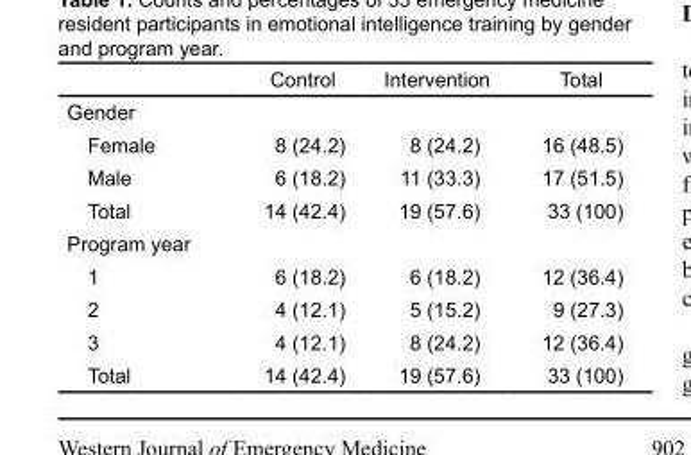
<table><thead><tr><td></td><td>Control</td><td>Intervention</td><td>Total</td></tr></thead><tbody><tr><td colspan="4">Gender</td></tr><tr><td>Female</td><td>8 (24.2)</td><td>8 (24.2)</td><td>16 (48.5)</td></tr><tr><td>Male</td><td>6 (18.2)</td><td>11 (33.3)</td><td>17 (51.5)</td></tr><tr><td>Total</td><td>14 (42.4)</td><td>19 (57.6)</td><td>33 (100)</td></tr><tr><td colspan="4">Program year</td></tr><tr><td>1</td><td>6 (18.2)</td><td>6 (18.2)</td><td>12 (36.4)</td></tr><tr><td>2</td><td>4 (12.1)</td><td>5 (15.2)</td><td>9 (27.3)</td></tr><tr><td>3</td><td>4 (12.1)</td><td>8 (24.2)</td><td>12 (36.4)</td></tr><tr><td>Total</td><td>14 (42.4)</td><td>19 (57.6)</td><td>33 (100)</td></tr></tbody></table>